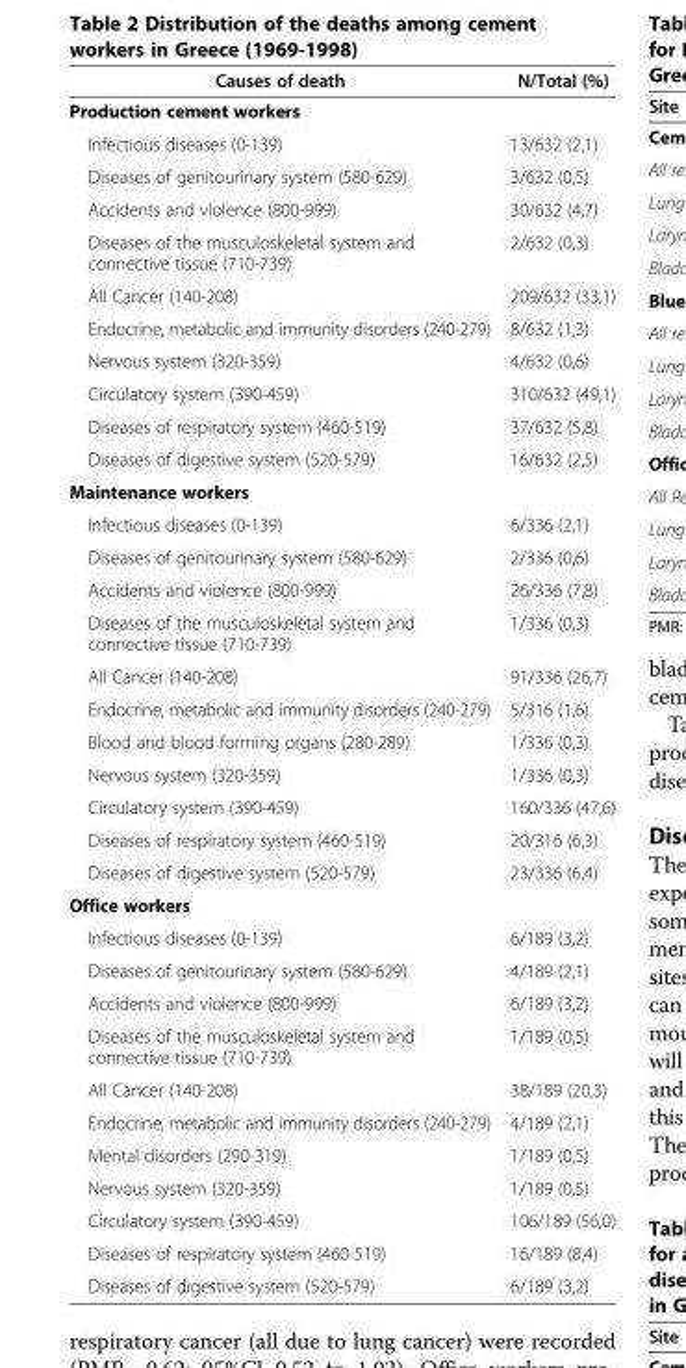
<table><thead><tr><td>Causes of death</td><td>N/Total (%)</td></tr></thead><tbody><tr><td colspan="2">Production cement workers</td></tr><tr><td>Infectious diseases (0-139)</td><td>13/632 (2,1)</td></tr><tr><td>Diseases of genitourinary system (580-629)</td><td>3/632 (0,5)</td></tr><tr><td>Accidents and violence (800-999)</td><td>30/632 (4,7)</td></tr><tr><td>Diseases of the musculoskeletal system and connective tissue (710-739)</td><td>2/632 (0,3)</td></tr><tr><td>All Cancer (140-208)</td><td>209/632 (33,1)</td></tr><tr><td>Endocrine, metabolic and immunity disorders (240-279)</td><td>8/632 (1,3)</td></tr><tr><td>Nervous system (320-359)</td><td>4/632 (0,6)</td></tr><tr><td>Circulatory system (390-459)</td><td>310/632 (49,1)</td></tr><tr><td>Diseases of respiratory system (460-519)</td><td>37/632 (5,8)</td></tr><tr><td>Diseases of digestive system (520-579)</td><td>16/632 (2,5)</td></tr><tr><td colspan="2">Maintenance workers</td></tr><tr><td>Infectious diseases (0-139)</td><td>6/336 (2,1)</td></tr><tr><td>Diseases of genitourinary system (580-629)</td><td>2/336 (0,6)</td></tr><tr><td>Accidents and violence (800-999)</td><td>26/336 (7,8)</td></tr><tr><td>Diseases of the musculoskeletal system and connective tissue (710-739)</td><td>1/336 (0,3)</td></tr><tr><td>All Cancer (140-208)</td><td>91/336 (26,7)</td></tr><tr><td>Endocrine, metabolic and immunity disorders (240-279)</td><td>5/316 (1,6)</td></tr><tr><td>Blood and blood forming organs (280-289)</td><td>1/336 (0,3)</td></tr><tr><td>Nervous system (320-359)</td><td>1/336 (0,3)</td></tr><tr><td>Circulatory system (390-459)</td><td>160/336 (47,6)</td></tr><tr><td>Diseases of respiratory system (460-519)</td><td>20/316 (6,3)</td></tr><tr><td>Diseases of digestive system (520-579)</td><td>23/336 (6,4)</td></tr><tr><td colspan="2">Office workers</td></tr><tr><td>Infectious diseases (0-139)</td><td>6/189 (3,2)</td></tr><tr><td>Diseases of genitourinary system (580-629)</td><td>4/189 (2,1)</td></tr><tr><td>Accidents and violence (800-999)</td><td>6/189 (3,2)</td></tr><tr><td>Diseases of the musculoskeletal system and connective tissue (710-739)</td><td>1/189 (0,5)</td></tr><tr><td>All Cancer (140-208)</td><td>38/189 (20,3)</td></tr><tr><td>Endocrine, metabolic and immunity disorders (240-279)</td><td>4/189 (2,1)</td></tr><tr><td>Mental disorders (290-319)</td><td>1/189 (0,5)</td></tr><tr><td>Nervous system (320-359)</td><td>1/189 (0,5)</td></tr><tr><td>Circulatory system (390-459)</td><td>106/189 (56,0)</td></tr><tr><td>Diseases of respiratory system (460-519)</td><td>16/189 (8,4)</td></tr><tr><td>Diseases of digestive system (520-579)</td><td>6/189 (3,2)</td></tr></tbody></table>